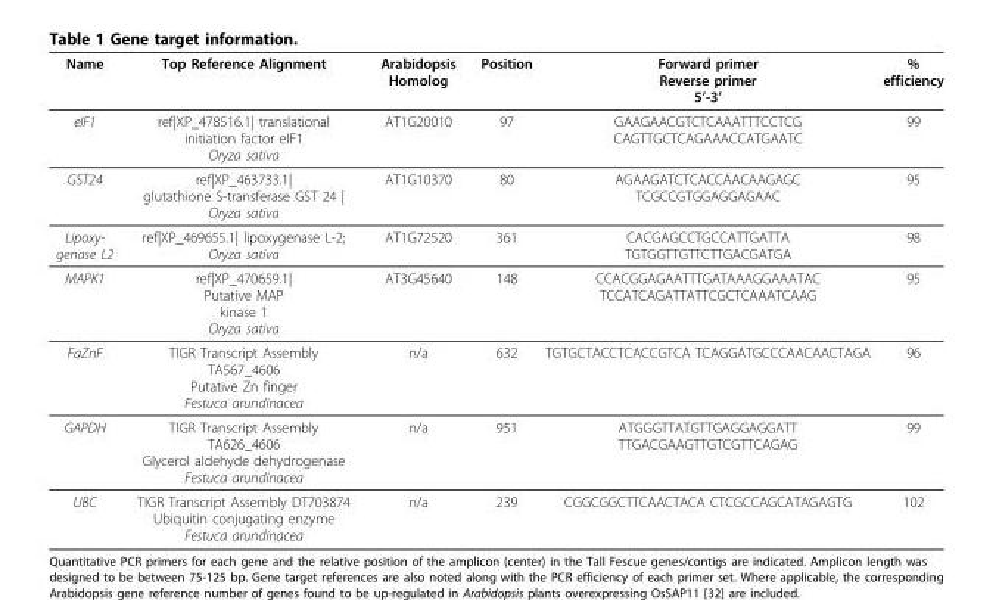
<table><thead><tr><td>Name</td><td>Top Reference Alignment</td><td>Arabidopsis Homolog</td><td>Position</td><td>Forward primer Reverse primer 5’-3’</td><td>% efficiency</td></tr></thead><tbody><tr><td>eIF1</td><td>ref|XP_478516.1| translational initiation factor eIF1 Oryza sativa</td><td>AT1G20010</td><td>97</td><td>GAAGAACGTCTCAAATTTCCTCG CAGTTGCTCAGAAACCATGAATC</td><td>99</td></tr><tr><td>GST24</td><td>ref|XP_463733.1| glutathione S-transferase GST 24 | Oryza sativa</td><td>AT1G10370</td><td>80</td><td>AGAAGATCTCACCAACAAGAGC TCGCCGTGGAGGAGAAC</td><td>95</td></tr><tr><td>Lipoxy- genase L2</td><td>ref|XP_469655.1| lipoxygenase L-2; Oryza sativa</td><td>AT1G72520</td><td>361</td><td>CACGAGCCTGCCATTGATTA TGTGGTTGTTCTTGACGATGA</td><td>98</td></tr><tr><td>MAPK1</td><td>ref|XP_470659.1| Putative MAP kinase 1 Oryza sativa</td><td>AT3G45640</td><td>148</td><td>CCACGGAGAATTTGATAAAGGAAATAC TCCATCAGATTATTCGCTCAAATCAAG</td><td>95</td></tr><tr><td>FaZnF</td><td>TIGR Transcript Assembly TA567_4606 Putative Zn finger Festuca arundinacea</td><td>n/a</td><td>632</td><td>TGTGCTACCTCACCGTCA TCAGGATGCCCAACAACTAGA</td><td>96</td></tr><tr><td>GAPDH</td><td>TIGR Transcript Assembly TA626_4606 Glycerol aldehyde dehydrogenase Festuca arundinacea</td><td>n/a</td><td>951</td><td>ATGGGTTATGTTGAGGAGGATT TTGACGAAGTTGTCGTTCAGAG</td><td>99</td></tr><tr><td>UBC</td><td>TIGR Transcript Assembly DT703874 Ubiquitin conjugating enzyme Festuca arundinacea</td><td>n/a</td><td>239</td><td>CGGCGGCTTCAACTACA CTCGCCAGCATAGAGTG</td><td>102</td></tr></tbody></table>